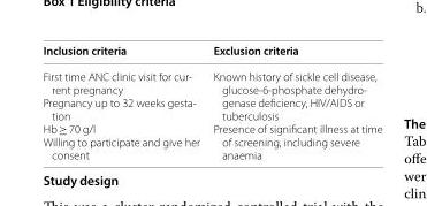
<table><thead><tr><td>Inclusion criteria</td><td>Exclusion criteria</td></tr></thead><tbody><tr><td>First time ANC clinic visit for cur- rent pregnancy Pregnancy up to 32 weeks gesta- tion Hb ≥ 70 g/l Willing to participate and give her consent</td><td>Known history of sickle cell disease, glucose-6-phosphate dehydro- genase deficiency, HIV/AIDS or tuberculosis Presence of significant illness at time of screening, including severe anaemia</td></tr></tbody></table>